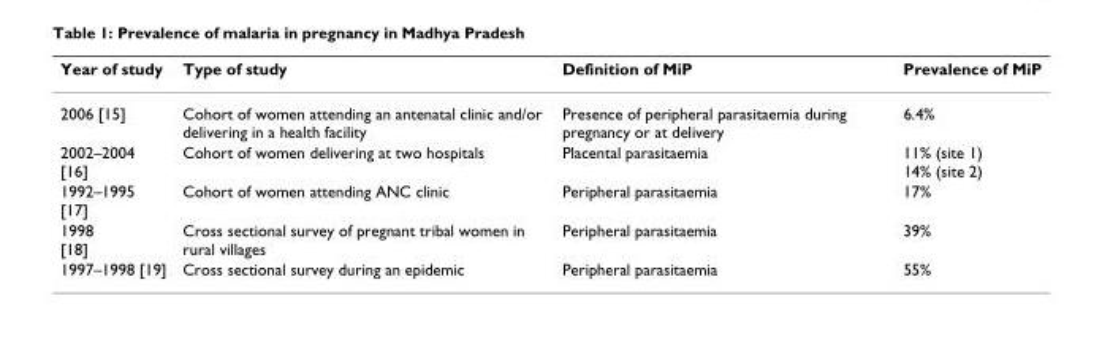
<table><thead><tr><td>Year of study</td><td>Type of study</td><td>Definition of MiP</td><td>Prevalence of MiP</td></tr></thead><tbody><tr><td>2006 [15]</td><td>Cohort of women attending an antenatal clinic and/or delivering in a health facility</td><td>Presence of peripheral parasitaemia during pregnancy or at delivery</td><td>6.4%</td></tr><tr><td>2002–2004 [16]</td><td>Cohort of women delivering at two hospitals</td><td>Placental parasitaemia</td><td>11% (site 1) 14% (site 2)</td></tr><tr><td>1992–1995 [17]</td><td>Cohort of women attending ANC clinic</td><td>Peripheral parasitaemia</td><td>17%</td></tr><tr><td>1998 [18]</td><td>Cross sectional survey of pregnant tribal women in rural villages</td><td>Peripheral parasitaemia</td><td>39%</td></tr><tr><td>1997–1998 [19]</td><td>Cross sectional survey during an epidemic</td><td>Peripheral parasitaemia</td><td>55%</td></tr></tbody></table>